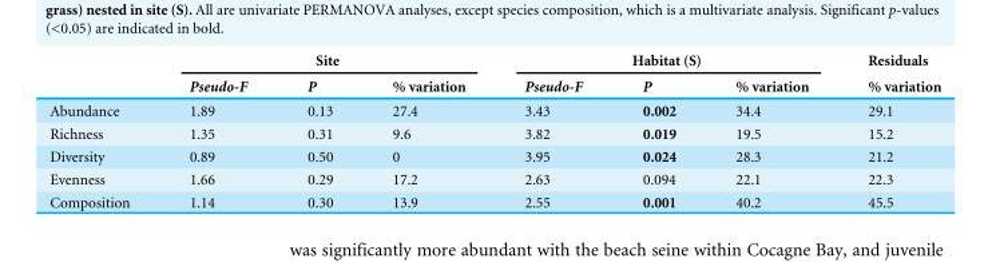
<table><thead><tr><td rowspan="2"></td><td colspan="3">Site</td><td colspan="3">Habitat (S)</td><td rowspan="2">Residuals % variation</td></tr><tr><td>Pseudo-F</td><td>P</td><td>% variation</td><td>Pseudo-F</td><td>P</td><td>% variation</td></tr></thead><tbody><tr><td>Abundance</td><td>1.89</td><td>0.13</td><td>27.4</td><td>3.43</td><td>0.002</td><td>34.4</td><td>29.1</td></tr><tr><td>Richness</td><td>1.35</td><td>0.31</td><td>9.6</td><td>3.82</td><td>0.019</td><td>19.5</td><td>15.2</td></tr><tr><td>Diversity</td><td>0.89</td><td>0.50</td><td>0</td><td>3.95</td><td>0.024</td><td>28.3</td><td>21.2</td></tr><tr><td>Evenness</td><td>1.66</td><td>0.29</td><td>17.2</td><td>2.63</td><td>0.094</td><td>22.1</td><td>22.3</td></tr><tr><td>Composition</td><td>1.14</td><td>0.30</td><td>13.9</td><td>2.55</td><td>0.001</td><td>40.2</td><td>45.5</td></tr></tbody></table>